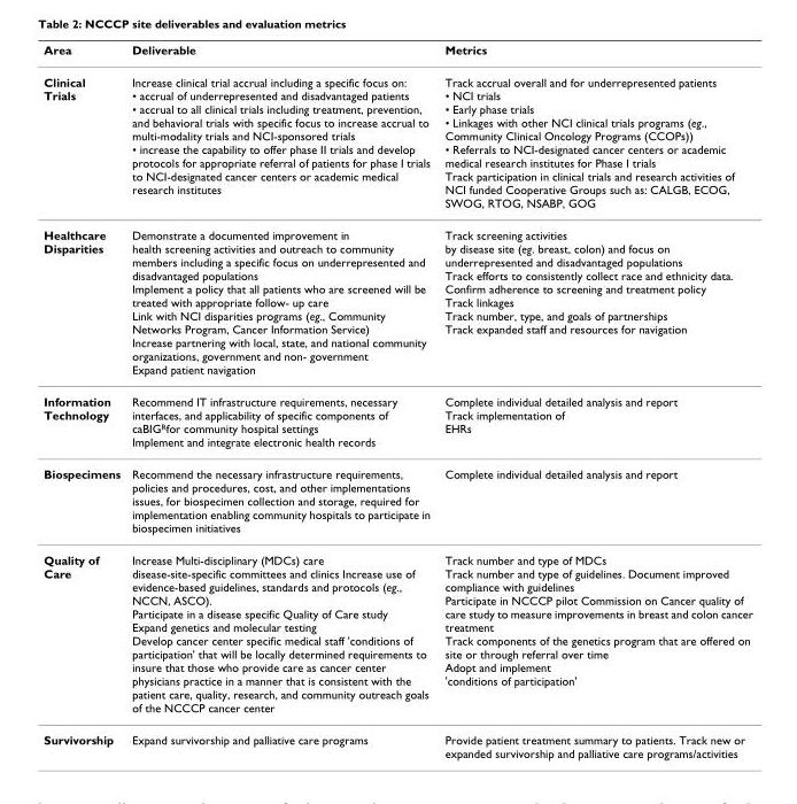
<table><thead><tr><td>Area</td><td>Deliverable</td><td>Metrics</td></tr></thead><tbody><tr><td>Clinical Trials</td><td>Increase clinical trial accrual including a specific focus on: • accrual of underrepresented and disadvantaged patients • accrual to all clinical trials including treatment, prevention, and behavioral trials with specific focus to increase accrual to multi-modality trials and NCI-sponsored trials • increase the capability to offer phase II trials and develop protocols for appropriate referral of patients for phase I trials to NCI-designated cancer centers or academic medical research institutes</td><td>Track accrual overall and for underrepresented patients • NCI trials • Early phase trials • Linkages with other NCI clinical trials programs (eg., Community Clinical Oncology Programs (CCOPs)) • Referrals to NCI-designated cancer centers or academic medical research institutes for Phase I trials Track participation in clinical trials and research activities of NCI funded Cooperative Groups such as: CALGB, ECOG, SWOG, RTOG, NSABP, GOG</td></tr><tr><td>Healthcare Disparities</td><td>Demonstrate a documented improvement in health screening activities and outreach to community members including a specific focus on underrepresented and disadvantaged populations Implement a policy that all patients who are screened will be treated with appropriate follow- up care Link with NCI disparities programs (eg., Community Networks Program, Cancer Information Service) Increase partnering with local, state, and national community organizations, government and non- government Expand patient navigation</td><td>Track screening activities by disease site (eg. breast, colon) and focus on underrepresented and disadvantaged populations Track efforts to consistently collect race and ethnicity data. Confirm adherence to screening and treatment policy Track linkages Track number, type, and goals of partnerships Track expanded staff and resources for navigation</td></tr><tr><td>Information Technology</td><td>Recommend IT infrastructure requirements, necessary interfaces, and applicability of specific components of caBIG<sup>R</sup>for community hospital settings Implement and integrate electronic health records</td><td>Complete individual detailed analysis and report Track implementation of EHRs</td></tr><tr><td>Biospecimens</td><td>Recommend the necessary infrastructure requirements, policies and procedures, cost, and other implementations issues, for biospecimen collection and storage, required for implementation enabling community hospitals to participate in biospecimen initiatives</td><td>Complete individual detailed analysis and report</td></tr><tr><td>Quality of Care</td><td>Increase Multi-disciplinary (MDCs) care disease-site-specific committees and clinics Increase use of evidence-based guidelines, standards and protocols (eg., NCCN, ASCO). Participate in a disease specific Quality of Care study Expand genetics and molecular testing Develop cancer center specific medical staff &#x27;conditions of participation&#x27; that will be locally determined requirements to insure that those who provide care as cancer center physicians practice in a manner that is consistent with the patient care, quality, research, and community outreach goals of the NCCCP cancer center</td><td>Track number and type of MDCs Track number and type of guidelines. Document improved compliance with guidelines Participate in NCCCP pilot Commission on Cancer quality of care study to measure improvements in breast and colon cancer treatment Track components of the genetics program that are offered on site or through referral over time Adopt and implement &#x27;conditions of participation&#x27;</td></tr><tr><td>Survivorship</td><td>Expand survivorship and palliative care programs</td><td>Provide patient treatment summary to patients. Track new or expanded survivorship and palliative care programs/activities</td></tr></tbody></table>